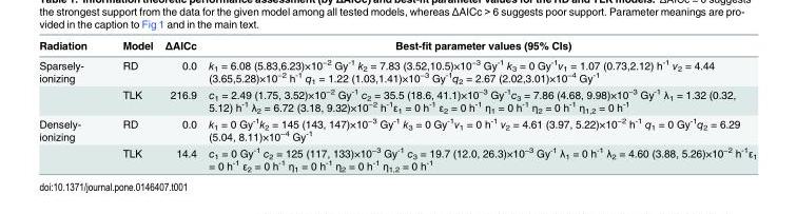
<table><thead><tr><td>Radiation</td><td>Model</td><td>ΔAICc</td><td>Best-fit parameter values (95% CIs)</td></tr></thead><tbody><tr><td rowspan="2">Sparsely- ionizing</td><td>RD</td><td>0.0</td><td>k<sub>1</sub> = 6.08 (5.83,6.23)×10<sup>−2</sup> Gy<sup>-1</sup> k<sub>2</sub> = 7.83 (3.52,10.5)×10<sup>−3</sup> Gy<sup>-1</sup> k<sub>3</sub> = 0 Gy<sup>-1</sup>v<sub>1</sub> = 1.07 (0.73,2.12) h<sup>-1</sup> v<sub>2</sub> = 4.44 (3.65,5.28)×10<sup>−2</sup> h<sup>-1</sup> q<sub>1</sub> = 1.22 (1.03,1.41)×10<sup>−3</sup> Gy<sup>-1</sup>q<sub>2</sub> = 2.67 (2.02,3.01)×10<sup>−4</sup> Gy<sup>-1</sup></td></tr><tr><td>TLK</td><td>216.9</td><td>c<sub>1</sub> = 2.49 (1.75, 3.52)×10<sup>−2</sup> Gy<sup>-1</sup> c<sub>2</sub> = 35.5 (18.6, 41.1)×10<sup>−3</sup> Gy<sup>-1</sup>c<sub>3</sub> = 7.86 (4.68, 9.98)×10<sup>−3</sup> Gy<sup>-1</sup> λ<sub>1</sub> = 1.32 (0.32, 5.12) h<sup>-1</sup> λ<sub>2</sub> = 6.72 (3.18, 9.32)×10<sup>−2</sup> h<sup>-1</sup>ε<sub>1</sub> = 0 h<sup>-1</sup> ε<sub>2</sub> = 0 h<sup>-1</sup> η<sub>1</sub> = 0 h<sup>-1</sup> η<sub>2</sub> = 0 h<sup>-1</sup> η<sub>1,2</sub> = 0 h<sup>-1</sup></td></tr><tr><td rowspan="2">Densely- ionizing</td><td>RD</td><td>0.0</td><td>k<sub>1</sub> = 0 Gy<sup>-1</sup>k<sub>2</sub> = 145 (143, 147)×10<sup>−3</sup> Gy<sup>-1</sup> k<sub>3</sub> = 0 Gy<sup>-1</sup>v<sub>1</sub> = 0 h<sup>-1</sup> v<sub>2</sub> = 4.61 (3.97, 5.22)×10<sup>−2</sup> h<sup>-1</sup> q<sub>1</sub> = 0 Gy<sup>-1</sup>q<sub>2</sub> = 6.29 (5.04, 8.11)×10<sup>−4</sup> Gy<sup>-1</sup></td></tr><tr><td>TLK</td><td>14.4</td><td>c<sub>1</sub> = 0 Gy<sup>-1</sup> c<sub>2</sub> = 125 (117, 133)×10<sup>−3</sup> Gy<sup>-1</sup> c<sub>3</sub> = 19.7 (12.0, 26.3)×10<sup>−3</sup> Gy<sup>-1</sup> λ<sub>1</sub> = 0 h<sup>-1</sup> λ<sub>2</sub> = 4.60 (3.88, 5.26)×10<sup>−2</sup> h<sup>-1</sup>ε<sub>1</sub> = 0 h<sup>-1</sup> ε<sub>2</sub> = 0 h<sup>-1</sup> η<sub>1</sub> = 0 h<sup>-1</sup> η<sub>2</sub> = 0 h<sup>-1</sup> η<sub>1,2</sub> = 0 h<sup>-1</sup></td></tr></tbody></table>